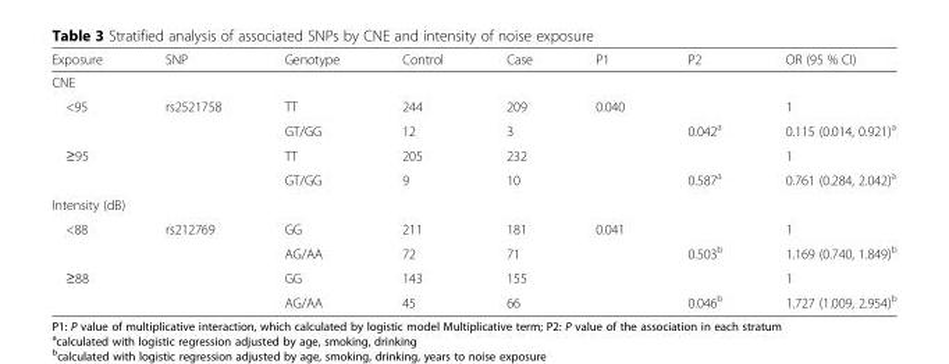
<table><thead><tr><td>Exposure</td><td>SNP</td><td>Genotype</td><td>Control</td><td>Case</td><td>P1</td><td>P2</td><td>OR (95 % CI)</td></tr></thead><tbody><tr><td colspan="8">CNE</td></tr><tr><td rowspan="2">&lt;95</td><td rowspan="4">rs2521758</td><td>TT</td><td>244</td><td>209</td><td rowspan="4">0.040</td><td></td><td>1</td></tr><tr><td>GT/GG</td><td>12</td><td>3</td><td>0.042<sup>a</sup></td><td>0.115 (0.014, 0.921)<sup>a</sup></td></tr><tr><td rowspan="2">≥95</td><td>TT</td><td>205</td><td>232</td><td></td><td>1</td></tr><tr><td>GT/GG</td><td>9</td><td>10</td><td>0.587<sup>a</sup></td><td>0.761 (0.284, 2.042)<sup>a</sup></td></tr><tr><td colspan="8">Intensity (dB)</td></tr><tr><td rowspan="2">&lt;88</td><td rowspan="4">rs212769</td><td>GG</td><td>211</td><td>181</td><td rowspan="4">0.041</td><td></td><td>1</td></tr><tr><td>AG/AA</td><td>72</td><td>71</td><td>0.503<sup>b</sup></td><td>1.169 (0.740, 1.849)<sup>b</sup></td></tr><tr><td rowspan="2">≥88</td><td>GG</td><td>143</td><td>155</td><td></td><td>1</td></tr><tr><td>AG/AA</td><td>45</td><td>66</td><td>0.046<sup>b</sup></td><td>1.727 (1.009, 2.954)<sup>b</sup></td></tr></tbody></table>